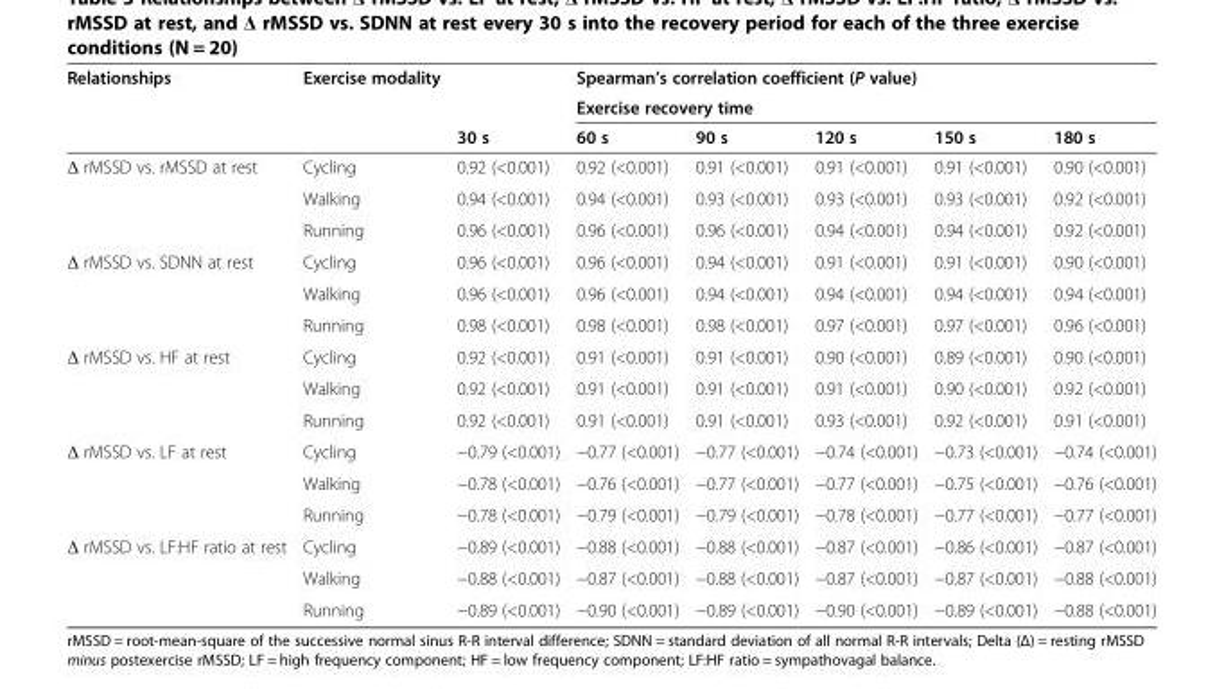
<table><thead><tr><td rowspan="3">Relationships</td><td rowspan="3">Exercise modality</td><td rowspan="3">30 s</td><td rowspan="2" colspan="5">Spearman’s correlation coefficient (P value) Exercise recovery time</td></tr><tr></tr><tr><td>60 s</td><td>90 s</td><td>120 s</td><td>150 s</td><td>180 s</td></tr></thead><tbody><tr><td rowspan="3">Δ rMSSD vs. rMSSD at rest</td><td>Cycling</td><td>0.92 (&lt;0.001)</td><td>0.92 (&lt;0.001)</td><td>0.91 (&lt;0.001)</td><td>0.91 (&lt;0.001)</td><td>0.91 (&lt;0.001)</td><td>0.90 (&lt;0.001)</td></tr><tr><td>Walking</td><td>0.94 (&lt;0.001)</td><td>0.94 (&lt;0.001)</td><td>0.93 (&lt;0.001)</td><td>0.93 (&lt;0.001)</td><td>0.93 (&lt;0.001)</td><td>0.92 (&lt;0.001)</td></tr><tr><td>Running</td><td>0.96 (&lt;0.001)</td><td>0.96 (&lt;0.001)</td><td>0.96 (&lt;0.001)</td><td>0.94 (&lt;0.001)</td><td>0.94 (&lt;0.001)</td><td>0.92 (&lt;0.001)</td></tr><tr><td rowspan="3">Δ rMSSD vs. SDNN at rest</td><td>Cycling</td><td>0.96 (&lt;0.001)</td><td>0.96 (&lt;0.001)</td><td>0.94 (&lt;0.001)</td><td>0.91 (&lt;0.001)</td><td>0.91 (&lt;0.001)</td><td>0.90 (&lt;0.001)</td></tr><tr><td>Walking</td><td>0.96 (&lt;0.001)</td><td>0.96 (&lt;0.001)</td><td>0.94 (&lt;0.001)</td><td>0.94 (&lt;0.001)</td><td>0.94 (&lt;0.001)</td><td>0.94 (&lt;0.001)</td></tr><tr><td>Running</td><td>0.98 (&lt;0.001)</td><td>0.98 (&lt;0.001)</td><td>0.98 (&lt;0.001)</td><td>0.97 (&lt;0.001)</td><td>0.97 (&lt;0.001)</td><td>0.96 (&lt;0.001)</td></tr><tr><td rowspan="3">Δ rMSSD vs. HF at rest</td><td>Cycling</td><td>0.92 (&lt;0.001)</td><td>0.91 (&lt;0.001)</td><td>0.91 (&lt;0.001)</td><td>0.90 (&lt;0.001)</td><td>0.89 (&lt;0.001)</td><td>0.90 (&lt;0.001)</td></tr><tr><td>Walking</td><td>0.92 (&lt;0.001)</td><td>0.91 (&lt;0.001)</td><td>0.91 (&lt;0.001)</td><td>0.91 (&lt;0.001)</td><td>0.90 (&lt;0.001)</td><td>0.92 (&lt;0.001)</td></tr><tr><td>Running</td><td>0.92 (&lt;0.001)</td><td>0.91 (&lt;0.001)</td><td>0.91 (&lt;0.001)</td><td>0.93 (&lt;0.001)</td><td>0.92 (&lt;0.001)</td><td>0.91 (&lt;0.001)</td></tr><tr><td rowspan="3">Δ rMSSD vs. LF at rest</td><td>Cycling</td><td>−0.79 (&lt;0.001)</td><td>−0.77 (&lt;0.001)</td><td>−0.77 (&lt;0.001)</td><td>−0.74 (&lt;0.001)</td><td>−0.73 (&lt;0.001)</td><td>−0.74 (&lt;0.001)</td></tr><tr><td>Walking</td><td>−0.78 (&lt;0.001)</td><td>−0.76 (&lt;0.001)</td><td>−0.77 (&lt;0.001)</td><td>−0.77 (&lt;0.001)</td><td>−0.75 (&lt;0.001)</td><td>−0.76 (&lt;0.001)</td></tr><tr><td>Running</td><td>−0.78 (&lt;0.001)</td><td>−0.79 (&lt;0.001)</td><td>−0.79 (&lt;0.001)</td><td>−0.78 (&lt;0.001)</td><td>−0.77 (&lt;0.001)</td><td>−0.77 (&lt;0.001)</td></tr><tr><td rowspan="3">Δ rMSSD vs. LF:HF ratio at rest</td><td>Cycling</td><td>−0.89 (&lt;0.001)</td><td>−0.88 (&lt;0.001)</td><td>−0.88 (&lt;0.001)</td><td>−0.87 (&lt;0.001)</td><td>−0.86 (&lt;0.001)</td><td>−0.87 (&lt;0.001)</td></tr><tr><td>Walking</td><td>−0.88 (&lt;0.001)</td><td>−0.87 (&lt;0.001)</td><td>−0.88 (&lt;0.001)</td><td>−0.87 (&lt;0.001)</td><td>−0.87 (&lt;0.001)</td><td>−0.88 (&lt;0.001)</td></tr><tr><td>Running</td><td>−0.89 (&lt;0.001)</td><td>−0.90 (&lt;0.001)</td><td>−0.89 (&lt;0.001)</td><td>−0.90 (&lt;0.001)</td><td>−0.89 (&lt;0.001)</td><td>−0.88 (&lt;0.001)</td></tr></tbody></table>